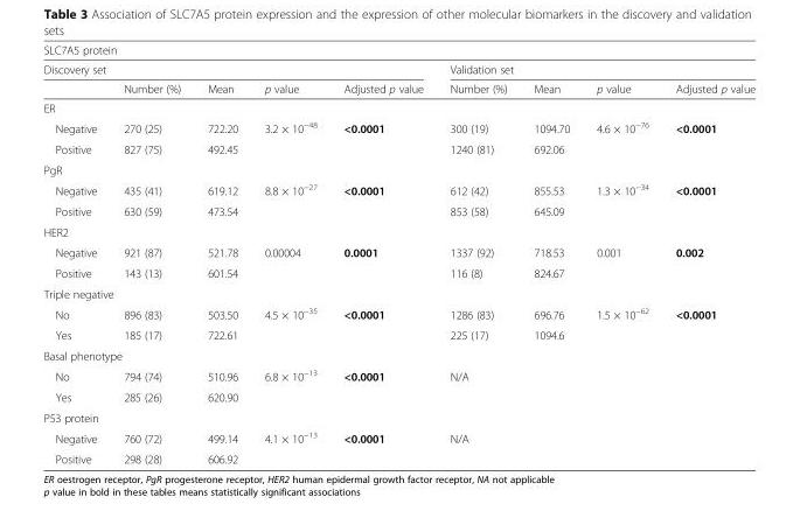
<table><thead><tr><td colspan="9">SLC7A5 protein</td></tr><tr><td colspan="5">Discovery set</td><td colspan="4">Validation set</td></tr><tr><td></td><td>Number (%)</td><td>Mean</td><td>p value</td><td>Adjusted p value</td><td>Number (%)</td><td>Mean</td><td>p value</td><td>Adjusted p value</td></tr></thead><tbody><tr><td colspan="9">ER</td></tr><tr><td>Negative</td><td>270 (25)</td><td>722.20</td><td rowspan="2">3.2 × 10<sup>−48</sup></td><td rowspan="2">&lt;0.0001</td><td>300 (19)</td><td>1094.70</td><td rowspan="2">4.6 × 10<sup>−76</sup></td><td rowspan="2">&lt;0.0001</td></tr><tr><td>Positive</td><td>827 (75)</td><td>492.45</td><td>1240 (81)</td><td>692.06</td></tr><tr><td colspan="9">PgR</td></tr><tr><td>Negative</td><td>435 (41)</td><td>619.12</td><td rowspan="2">8.8 × 10<sup>−27</sup></td><td rowspan="2">&lt;0.0001</td><td>612 (42)</td><td>855.53</td><td rowspan="2">1.3 × 10<sup>−34</sup></td><td rowspan="2">&lt;0.0001</td></tr><tr><td>Positive</td><td>630 (59)</td><td>473.54</td><td>853 (58)</td><td>645.09</td></tr><tr><td colspan="9">HER2</td></tr><tr><td>Negative</td><td>921 (87)</td><td>521.78</td><td rowspan="2">0.00004</td><td rowspan="2">0.0001</td><td>1337 (92)</td><td>718.53</td><td rowspan="2">0.001</td><td rowspan="2">0.002</td></tr><tr><td>Positive</td><td>143 (13)</td><td>601.54</td><td>116 (8)</td><td>824.67</td></tr><tr><td colspan="9">Triple negative</td></tr><tr><td>No</td><td>896 (83)</td><td>503.50</td><td rowspan="2">4.5 × 10<sup>−35</sup></td><td rowspan="2">&lt;0.0001</td><td>1286 (83)</td><td>696.76</td><td rowspan="2">1.5 × 10<sup>−62</sup></td><td rowspan="2">&lt;0.0001</td></tr><tr><td>Yes</td><td>185 (17)</td><td>722.61</td><td>225 (17)</td><td>1094.6</td></tr><tr><td colspan="9">Basal phenotype</td></tr><tr><td>No</td><td>794 (74)</td><td>510.96</td><td rowspan="2">6.8 × 10<sup>−13</sup></td><td rowspan="2">&lt;0.0001</td><td rowspan="2" colspan="4">N/A</td></tr><tr><td>Yes</td><td>285 (26)</td><td>620.90</td></tr><tr><td colspan="9">P53 protein</td></tr><tr><td>Negative</td><td>760 (72)</td><td>499.14</td><td rowspan="2">4.1 × 10<sup>−13</sup></td><td rowspan="2">&lt;0.0001</td><td rowspan="2" colspan="4">N/A</td></tr><tr><td>Positive</td><td>298 (28)</td><td>606.92</td></tr></tbody></table>